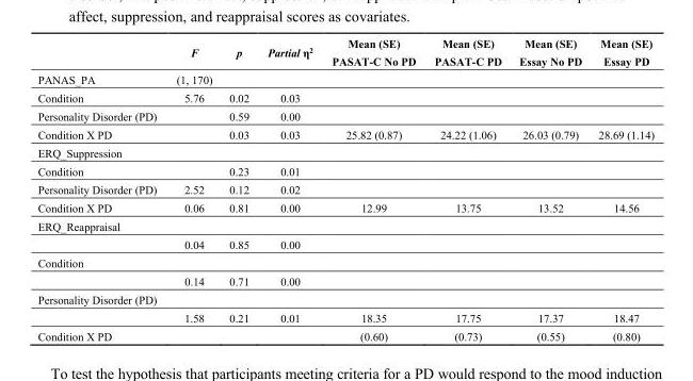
<table><thead><tr><td></td><td>F</td><td>p</td><td>Partial η<sup>2</sup></td><td>Mean (SE) PASAT-C No PD</td><td>Mean (SE) PASAT-C PD</td><td>Mean (SE) Essay No PD</td><td>Mean (SE) Essay PD</td></tr></thead><tbody><tr><td>PANAS_PA</td><td>(1, 170)</td><td></td><td></td><td></td><td></td><td></td><td></td></tr><tr><td>Condition</td><td>5.76</td><td>0.02</td><td>0.03</td><td></td><td></td><td></td><td></td></tr><tr><td>Personality Disorder (PD)</td><td></td><td>0.59</td><td>0.00</td><td></td><td></td><td></td><td></td></tr><tr><td>Condition X PD</td><td></td><td>0.03</td><td>0.03</td><td>25.82 (0.87)</td><td>24.22 (1.06)</td><td>26.03 (0.79)</td><td>28.69 (1.14)</td></tr><tr><td colspan="8">ERQ_Suppression</td></tr><tr><td>Condition</td><td></td><td>0.23</td><td>0.01</td><td></td><td></td><td></td><td></td></tr><tr><td>Personality Disorder (PD)</td><td>2.52</td><td>0.12</td><td>0.02</td><td></td><td></td><td></td><td></td></tr><tr><td>Condition X PD</td><td>0.06</td><td>0.81</td><td>0.00</td><td>12.99</td><td>13.75</td><td>13.52</td><td>14.56</td></tr><tr><td colspan="8">ERQ_Reappraisal</td></tr><tr><td></td><td>0.04</td><td>0.85</td><td>0.00</td><td></td><td></td><td></td><td></td></tr><tr><td colspan="8">Condition</td></tr><tr><td></td><td>0.14</td><td>0.71</td><td>0.00</td><td></td><td></td><td></td><td></td></tr><tr><td colspan="8">Personality Disorder (PD)</td></tr><tr><td></td><td>1.58</td><td>0.21</td><td>0.01</td><td>18.35</td><td>17.75</td><td>17.37</td><td>18.47</td></tr><tr><td>Condition X PD</td><td></td><td></td><td></td><td>(0.60)</td><td>(0.73)</td><td>(0.55)</td><td>(0.80)</td></tr></tbody></table>